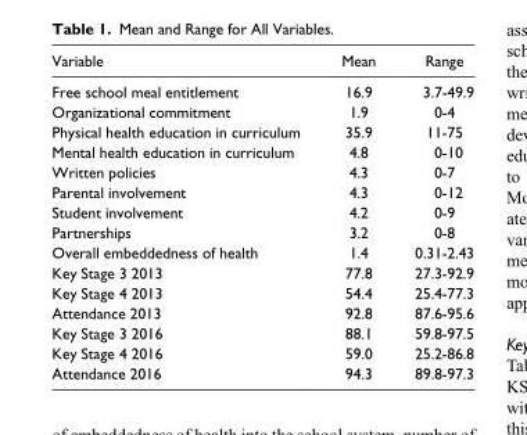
<table><thead><tr><td>Variable</td><td>Mean</td><td>Range</td></tr></thead><tbody><tr><td>Free school meal entitlement</td><td>16.9</td><td>3.7-49.9</td></tr><tr><td>Organizational commitment</td><td>1.9</td><td>0-4</td></tr><tr><td>Physical health education in curriculum</td><td>35.9</td><td>11-75</td></tr><tr><td>Mental health education in curriculum</td><td>4.8</td><td>0-10</td></tr><tr><td>Written policies</td><td>4.3</td><td>0-7</td></tr><tr><td>Parental involvement</td><td>4.3</td><td>0-12</td></tr><tr><td>Student involvement</td><td>4.2</td><td>0-9</td></tr><tr><td>Partnerships</td><td>3.2</td><td>0-8</td></tr><tr><td>Overall embeddedness of health</td><td>1.4</td><td>0.31-2.43</td></tr><tr><td>Key Stage 3 2013</td><td>77.8</td><td>27.3-92.9</td></tr><tr><td>Key Stage 4 2013</td><td>54.4</td><td>25.4-77.3</td></tr><tr><td>Attendance 2013</td><td>92.8</td><td>87.6-95.6</td></tr><tr><td>Key Stage 3 2016</td><td>88.1</td><td>59.8-97.5</td></tr><tr><td>Key Stage 4 2016</td><td>59.0</td><td>25.2-86.8</td></tr><tr><td>Attendance 2016</td><td>94.3</td><td>89.8-97.3</td></tr></tbody></table>